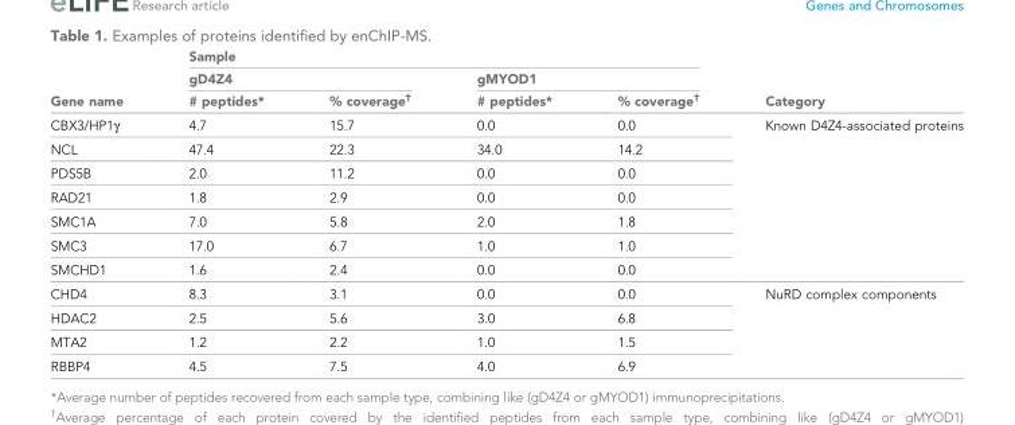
<table><thead><tr><td rowspan="3">Gene name</td><td colspan="4">Sample</td><td rowspan="3">Category</td></tr><tr><td colspan="2">gD4Z4</td><td colspan="2">gMYOD1</td></tr><tr><td># peptides*</td><td>% coverage<sup>†</sup></td><td># peptides*</td><td>% coverage<sup>†</sup></td></tr></thead><tbody><tr><td>CBX3/HP1γ</td><td>4.7</td><td>15.7</td><td>0.0</td><td>0.0</td><td rowspan="7">Known D4Z4-associated proteins</td></tr><tr><td>NCL</td><td>47.4</td><td>22.3</td><td>34.0</td><td>14.2</td></tr><tr><td>PDS5B</td><td>2.0</td><td>11.2</td><td>0.0</td><td>0.0</td></tr><tr><td>RAD21</td><td>1.8</td><td>2.9</td><td>0.0</td><td>0.0</td></tr><tr><td>SMC1A</td><td>7.0</td><td>5.8</td><td>2.0</td><td>1.8</td></tr><tr><td>SMC3</td><td>17.0</td><td>6.7</td><td>1.0</td><td>1.0</td></tr><tr><td>SMCHD1</td><td>1.6</td><td>2.4</td><td>0.0</td><td>0.0</td></tr><tr><td>CHD4</td><td>8.3</td><td>3.1</td><td>0.0</td><td>0.0</td><td rowspan="4">NuRD complex components</td></tr><tr><td>HDAC2</td><td>2.5</td><td>5.6</td><td>3.0</td><td>6.8</td></tr><tr><td>MTA2</td><td>1.2</td><td>2.2</td><td>1.0</td><td>1.5</td></tr><tr><td>RBBP4</td><td>4.5</td><td>7.5</td><td>4.0</td><td>6.9</td></tr></tbody></table>